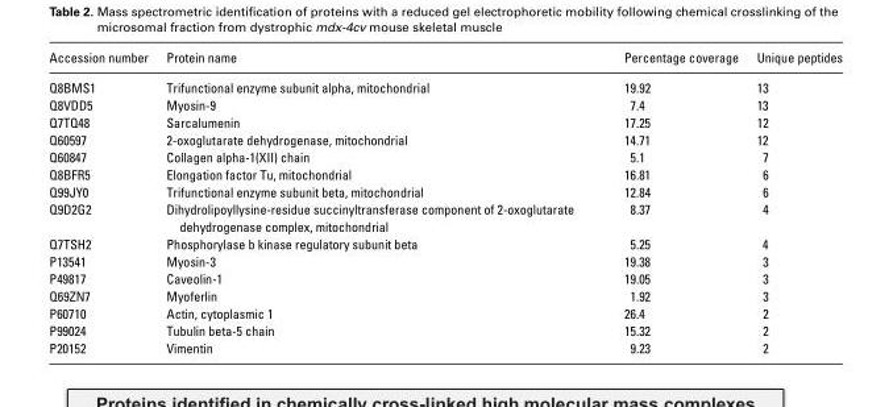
<table><thead><tr><td>Accession number</td><td>Protein name</td><td>Percentage coverage</td><td>Unique peptides</td></tr></thead><tbody><tr><td>Q8BMS1</td><td>Trifunctional enzyme subunit alpha, mitochondrial</td><td>19.92</td><td>13</td></tr><tr><td>Q8VDD5</td><td>Myosin-9</td><td>7.4</td><td>13</td></tr><tr><td>Q7TQ48</td><td>Sarcalumenin</td><td>17.25</td><td>12</td></tr><tr><td>Q60597</td><td>2-oxoglutarate dehydrogenase, mitochondrial</td><td>14.71</td><td>12</td></tr><tr><td>Q60847</td><td>Collagen alpha-1(XII) chain</td><td>5.1</td><td>7</td></tr><tr><td>Q8BFR5</td><td>Elongation factor Tu, mitochondrial</td><td>16.81</td><td>6</td></tr><tr><td>Q99JY0</td><td>Trifunctional enzyme subunit beta, mitochondrial</td><td>12.84</td><td>6</td></tr><tr><td>Q9D2G2</td><td>Dihydrolipoyllysine-residue succinyltransferase component of 2-oxoglutarate dehydrogenase complex, mitochondrial</td><td>8.37</td><td>4</td></tr><tr><td>Q7TSH2</td><td>Phosphorylase b kinase regulatory subunit beta</td><td>5.25</td><td>4</td></tr><tr><td>P13541</td><td>Myosin-3</td><td>19.38</td><td>3</td></tr><tr><td>P49817</td><td>Caveolin-1</td><td>19.05</td><td>3</td></tr><tr><td>Q69ZN7</td><td>Myoferlin</td><td>1.92</td><td>3</td></tr><tr><td>P60710</td><td>Actin, cytoplasmic 1</td><td>26.4</td><td>2</td></tr><tr><td>P99024</td><td>Tubulin beta-5 chain</td><td>15.32</td><td>2</td></tr><tr><td>P20152</td><td>Vimentin</td><td>9.23</td><td>2</td></tr></tbody></table>